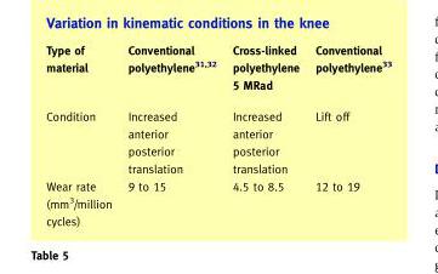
<table><thead><tr><td>Type of material</td><td>Conventional polyethylene<sup>31,32</sup></td><td>Cross-linked polyethylene 5 MRad</td><td>Conventional polyethylene<sup>33</sup></td></tr></thead><tbody><tr><td>Condition</td><td>Increased anterior posterior translation</td><td>Increased anterior posterior translation</td><td>Lift off</td></tr><tr><td>Wear rate (mm<sup>3</sup>/million cycles)</td><td>9 to 15</td><td>4.5 to 8.5</td><td>12 to 19</td></tr></tbody></table>